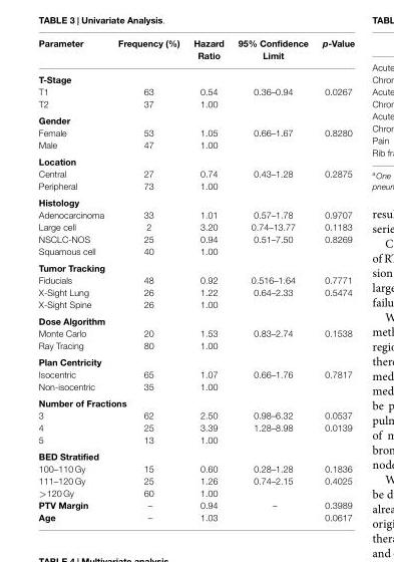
<table><thead><tr><td>Parameter</td><td>Frequency (%)</td><td>Hazard Ratio</td><td>95% Confidence Limit</td><td>p-Value</td></tr></thead><tbody><tr><td colspan="5">T-Stage</td></tr><tr><td>T1</td><td>63</td><td>0.54</td><td>0.36–0.94</td><td>0.0267</td></tr><tr><td>T2</td><td>37</td><td>1.00</td><td></td><td></td></tr><tr><td colspan="5">Gender</td></tr><tr><td>Female</td><td>53</td><td>1.05</td><td>0.66–1.67</td><td>0.8280</td></tr><tr><td>Male</td><td>47</td><td>1.00</td><td></td><td></td></tr><tr><td colspan="5">Location</td></tr><tr><td>Central</td><td>27</td><td>0.74</td><td>0.43–1.28</td><td>0.2875</td></tr><tr><td>Peripheral</td><td>73</td><td>1.00</td><td></td><td></td></tr><tr><td colspan="5">Histology</td></tr><tr><td>Adenocarcinoma</td><td>33</td><td>1.01</td><td>0.57–1.78</td><td>0.9707</td></tr><tr><td>Large cell</td><td>2</td><td>3.20</td><td>0.74–13.77</td><td>0.1183</td></tr><tr><td>NSCLC-NOS</td><td>25</td><td>0.94</td><td>0.51–7.50</td><td>0.8269</td></tr><tr><td>Squamous cell</td><td>40</td><td>1.00</td><td></td><td></td></tr><tr><td colspan="5">Tumor Tracking</td></tr><tr><td>Fiducials</td><td>48</td><td>0.92</td><td>0.516–1.64</td><td>0.7771</td></tr><tr><td>X-Sight Lung</td><td>26</td><td>1.22</td><td>0.64–2.33</td><td>0.5474</td></tr><tr><td>X-Sight Spine</td><td>26</td><td>1.00</td><td></td><td></td></tr><tr><td colspan="5">Dose Algorithm</td></tr><tr><td>Monte Carlo</td><td>20</td><td>1.53</td><td>0.83–2.74</td><td>0.1538</td></tr><tr><td>Ray Tracing</td><td>80</td><td>1.00</td><td></td><td></td></tr><tr><td colspan="5">Plan Centricity</td></tr><tr><td>Isocentric</td><td>65</td><td>1.07</td><td>0.66–1.76</td><td>0.7817</td></tr><tr><td>Non-isocentric</td><td>35</td><td>1.00</td><td></td><td></td></tr><tr><td colspan="5">Number of Fractions</td></tr><tr><td>3</td><td>62</td><td>2.50</td><td>0.98–6.32</td><td>0.0537</td></tr><tr><td>4</td><td>25</td><td>3.39</td><td>1.28–8.98</td><td>0.0139</td></tr><tr><td>5</td><td>13</td><td>1.00</td><td></td><td></td></tr><tr><td colspan="5">BED Stratified</td></tr><tr><td>100–110 Gy</td><td>15</td><td>0.60</td><td>0.28–1.28</td><td>0.1836</td></tr><tr><td>111–120 Gy</td><td>25</td><td>1.26</td><td>0.74–2.15</td><td>0.4025</td></tr><tr><td>&gt;120 Gy</td><td>60</td><td>1.00</td><td></td><td></td></tr><tr><td>PTV Margin</td><td>–</td><td>0.94</td><td>–</td><td>0.3989</td></tr><tr><td>Age</td><td>–</td><td>1.03</td><td></td><td>0.0617</td></tr></tbody></table>